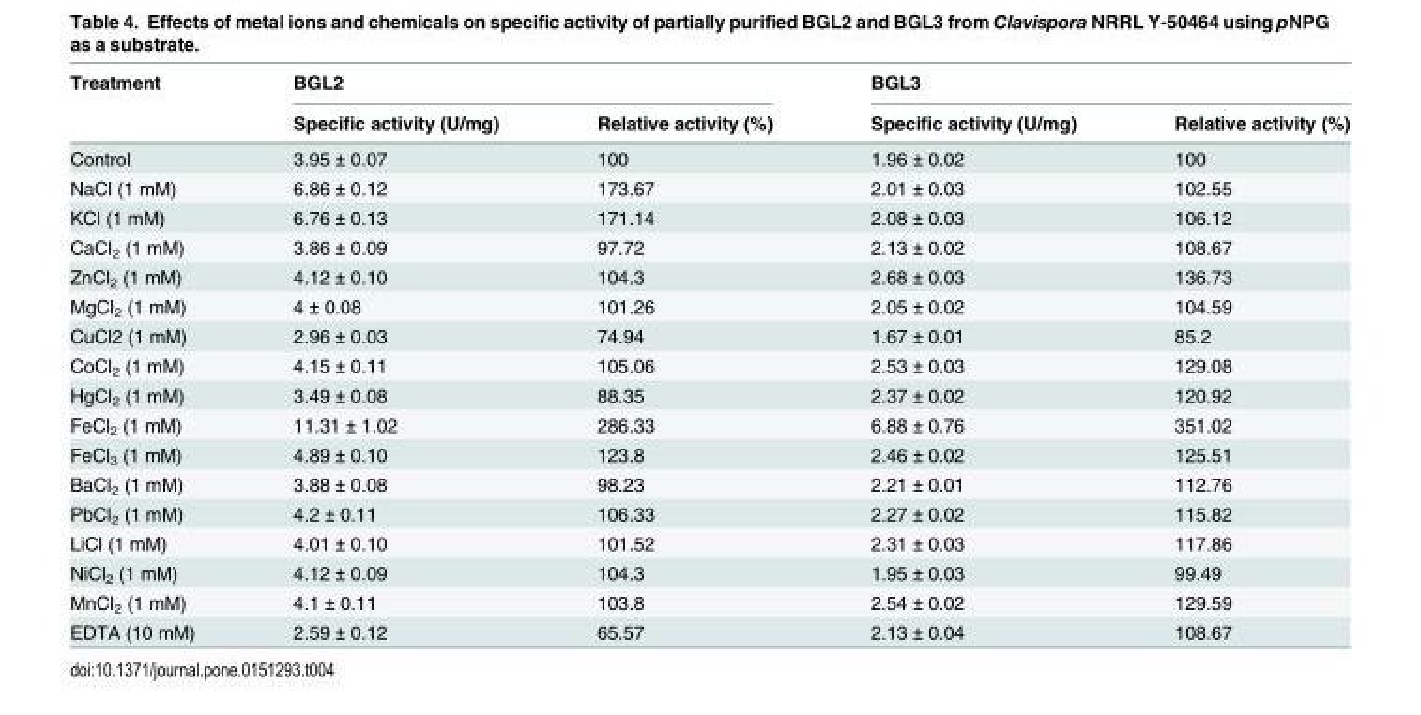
<table><thead><tr><td rowspan="2">Treatment</td><td colspan="2">BGL2</td><td colspan="2">BGL3</td></tr><tr><td>Specific activity (U/mg)</td><td>Relative activity (%)</td><td>Specific activity (U/mg)</td><td>Relative activity (%)</td></tr></thead><tbody><tr><td>Control</td><td>3.95 ± 0.07</td><td>100</td><td>1.96 ± 0.02</td><td>100</td></tr><tr><td>NaCl (1 mM)</td><td>6.86 ± 0.12</td><td>173.67</td><td>2.01 ± 0.03</td><td>102.55</td></tr><tr><td>KCl (1 mM)</td><td>6.76 ± 0.13</td><td>171.14</td><td>2.08 ± 0.03</td><td>106.12</td></tr><tr><td>CaCl<sub>2</sub> (1 mM)</td><td>3.86 ± 0.09</td><td>97.72</td><td>2.13 ± 0.02</td><td>108.67</td></tr><tr><td>ZnCl<sub>2</sub> (1 mM)</td><td>4.12 ± 0.10</td><td>104.3</td><td>2.68 ± 0.03</td><td>136.73</td></tr><tr><td>MgCl<sub>2</sub> (1 mM)</td><td>4 ± 0.08</td><td>101.26</td><td>2.05 ± 0.02</td><td>104.59</td></tr><tr><td>CuCl2 (1 mM)</td><td>2.96 ± 0.03</td><td>74.94</td><td>1.67 ± 0.01</td><td>85.2</td></tr><tr><td>CoCl<sub>2</sub> (1 mM)</td><td>4.15 ± 0.11</td><td>105.06</td><td>2.53 ± 0.03</td><td>129.08</td></tr><tr><td>HgCl<sub>2</sub> (1 mM)</td><td>3.49 ± 0.08</td><td>88.35</td><td>2.37 ± 0.02</td><td>120.92</td></tr><tr><td>FeCl<sub>2</sub> (1 mM)</td><td>11.31 ± 1.02</td><td>286.33</td><td>6.88 ± 0.76</td><td>351.02</td></tr><tr><td>FeCl<sub>3</sub> (1 mM)</td><td>4.89 ± 0.10</td><td>123.8</td><td>2.46 ± 0.02</td><td>125.51</td></tr><tr><td>BaCl<sub>2</sub> (1 mM)</td><td>3.88 ± 0.08</td><td>98.23</td><td>2.21 ± 0.01</td><td>112.76</td></tr><tr><td>PbCl<sub>2</sub> (1 mM)</td><td>4.2 ± 0.11</td><td>106.33</td><td>2.27 ± 0.02</td><td>115.82</td></tr><tr><td>LiCl (1 mM)</td><td>4.01 ± 0.10</td><td>101.52</td><td>2.31 ± 0.03</td><td>117.86</td></tr><tr><td>NiCl<sub>2</sub> (1 mM)</td><td>4.12 ± 0.09</td><td>104.3</td><td>1.95 ± 0.03</td><td>99.49</td></tr><tr><td>MnCl<sub>2</sub> (1 mM)</td><td>4.1 ± 0.11</td><td>103.8</td><td>2.54 ± 0.02</td><td>129.59</td></tr><tr><td>EDTA (10 mM)</td><td>2.59 ± 0.12</td><td>65.57</td><td>2.13 ± 0.04</td><td>108.67</td></tr></tbody></table>